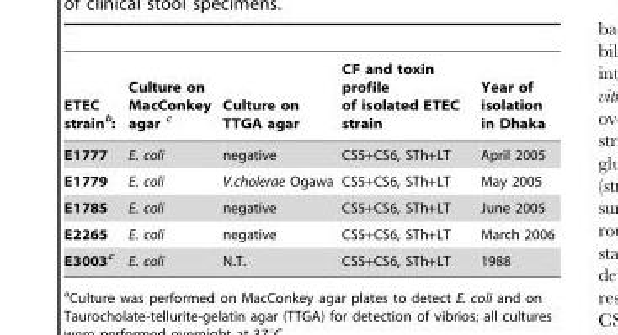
<table><thead><tr><td>ETEC strain<sup>b</sup>:</td><td>Culture on MacConkey agar <sup>c</sup></td><td>Culture on TTGA agar</td><td>CF and toxin profile of isolated ETEC strain</td><td>Year of isolation in Dhaka</td></tr></thead><tbody><tr><td>E1777</td><td>E. coli</td><td>negative</td><td>CS5+CS6, STh+LT</td><td>April 2005</td></tr><tr><td>E1779</td><td>E. coli</td><td>V.cholerae Ogawa</td><td>CS5+CS6, STh+LT</td><td>May 2005</td></tr><tr><td>E1785</td><td>E. coli</td><td>negative</td><td>CS5+CS6, STh+LT</td><td>June 2005</td></tr><tr><td>E2265</td><td>E. coli</td><td>negative</td><td>CS5+CS6, STh+LT</td><td>March 2006</td></tr><tr><td>E3003<sup>c</sup></td><td>E. coli</td><td>N.T.</td><td>CS5+CS6, STh+LT</td><td>1988</td></tr></tbody></table>